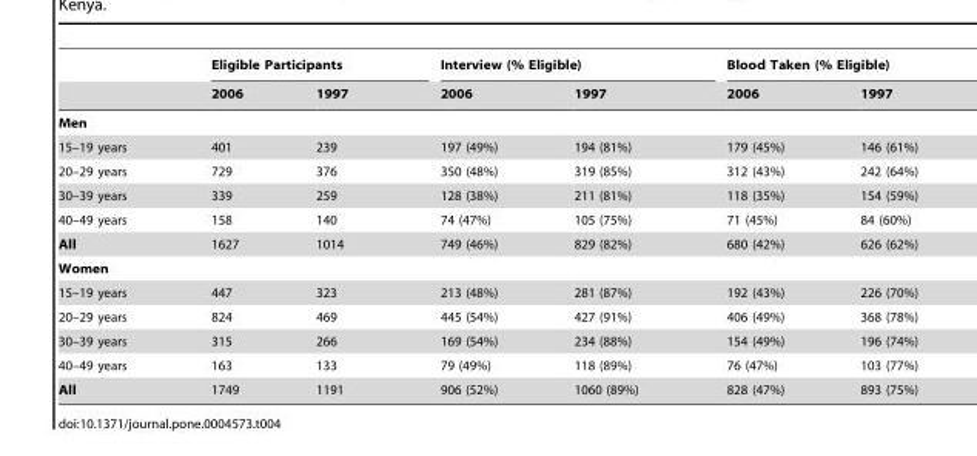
<table><thead><tr><td rowspan="2"></td><td colspan="2">Eligible Participants</td><td colspan="2">Interview (% Eligible)</td><td colspan="2">Blood Taken (% Eligible)</td></tr><tr><td>2006</td><td>1997</td><td>2006</td><td>1997</td><td>2006</td><td>1997</td></tr></thead><tbody><tr><td colspan="7">Men</td></tr><tr><td>15–19 years</td><td>401</td><td>239</td><td>197 (49%)</td><td>194 (81%)</td><td>179 (45%)</td><td>146 (61%)</td></tr><tr><td>20–29 years</td><td>729</td><td>376</td><td>350 (48%)</td><td>319 (85%)</td><td>312 (43%)</td><td>242 (64%)</td></tr><tr><td>30–39 years</td><td>339</td><td>259</td><td>128 (38%)</td><td>211 (81%)</td><td>118 (35%)</td><td>154 (59%)</td></tr><tr><td>40–49 years</td><td>158</td><td>140</td><td>74 (47%)</td><td>105 (75%)</td><td>71 (45%)</td><td>84 (60%)</td></tr><tr><td>All</td><td>1627</td><td>1014</td><td>749 (46%)</td><td>829 (82%)</td><td>680 (42%)</td><td>626 (62%)</td></tr><tr><td colspan="7">Women</td></tr><tr><td>15–19 years</td><td>447</td><td>323</td><td>213 (48%)</td><td>281 (87%)</td><td>192 (43%)</td><td>226 (70%)</td></tr><tr><td>20–29 years</td><td>824</td><td>469</td><td>445 (54%)</td><td>427 (91%)</td><td>406 (49%)</td><td>368 (78%)</td></tr><tr><td>30–39 years</td><td>315</td><td>266</td><td>169 (54%)</td><td>234 (88%)</td><td>154 (49%)</td><td>196 (74%)</td></tr><tr><td>40–49 years</td><td>163</td><td>133</td><td>79 (49%)</td><td>118 (89%)</td><td>76 (47%)</td><td>103 (77%)</td></tr><tr><td>All</td><td>1749</td><td>1191</td><td>906 (52%)</td><td>1060 (89%)</td><td>828 (47%)</td><td>893 (75%)</td></tr></tbody></table>